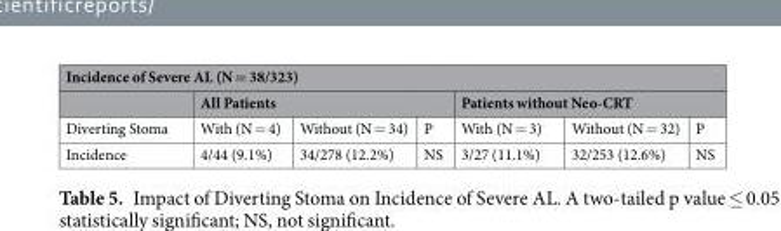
<table><thead><tr><td colspan="7">Incidence of Severe AL (N = 38/323)</td></tr><tr><td rowspan="2">Diverting Stoma</td><td colspan="3">All Patients</td><td colspan="3">Patients without Neo-CRT</td></tr><tr><td>With (N = 4)</td><td>Without (N = 34)</td><td>P</td><td>With (N = 3)</td><td>Without (N = 32)</td><td>P</td></tr></thead><tbody><tr><td>Incidence</td><td>4/44 (9.1%)</td><td>34/278 (12.2%)</td><td>NS</td><td>3/27 (11.1%)</td><td>32/253 (12.6%)</td><td>NS</td></tr></tbody></table>